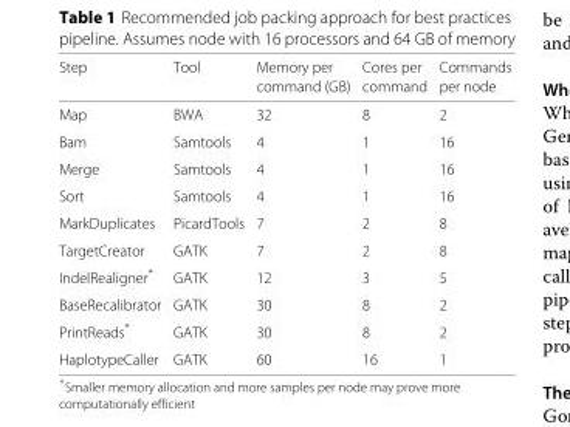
<table><thead><tr><td rowspan="2">Step</td><td rowspan="2">Tool</td><td rowspan="2">Memory per command (GB)</td><td rowspan="2">Cores per command</td><td rowspan="2">Commands per node</td></tr><tr></tr></thead><tbody><tr><td>Map</td><td>BWA</td><td>32</td><td>8</td><td>2</td></tr><tr><td>Bam</td><td>Samtools</td><td>4</td><td>1</td><td>16</td></tr><tr><td>Merge</td><td>Samtools</td><td>4</td><td>1</td><td>16</td></tr><tr><td>Sort</td><td>Samtools</td><td>4</td><td>1</td><td>16</td></tr><tr><td>MarkDuplicates</td><td>PicardTools</td><td>7</td><td>2</td><td>8</td></tr><tr><td>TargetCreator</td><td>GATK</td><td>7</td><td>2</td><td>8</td></tr><tr><td>IndelRealigner*</td><td>GATK</td><td>12</td><td>3</td><td>5</td></tr><tr><td>BaseRecalibrator</td><td>GATK</td><td>30</td><td>8</td><td>2</td></tr><tr><td>PrintReads*</td><td>GATK</td><td>30</td><td>8</td><td>2</td></tr><tr><td>HaplotypeCaller</td><td>GATK</td><td>60</td><td>16</td><td>1</td></tr></tbody></table>